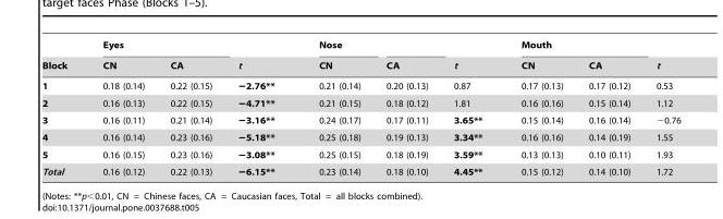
<table><thead><tr><td rowspan="2">Block</td><td colspan="2">Eyes</td><td rowspan="2">t</td><td rowspan="2">Nose CN</td><td rowspan="2">CA</td><td rowspan="2">t</td><td colspan="2">Mouth</td><td rowspan="2">t</td></tr><tr><td>CN</td><td>CA</td><td>CN</td><td>CA</td></tr></thead><tbody><tr><td>1</td><td>0.18 (0.14)</td><td>0.22 (0.15)</td><td>−2.76**</td><td>0.21 (0.14)</td><td>0.20 (0.13)</td><td>0.87</td><td>0.17 (0.13)</td><td>0.17 (0.12)</td><td>0.53</td></tr><tr><td>2</td><td>0.16 (0.13)</td><td>0.22 (0.15)</td><td>−4.71**</td><td>0.21 (0.15)</td><td>0.18 (0.12)</td><td>1.81</td><td>0.16 (0.16)</td><td>0.15 (0.14)</td><td>1.12</td></tr><tr><td>3</td><td>0.16 (0.11)</td><td>0.21 (0.14)</td><td>−3.16**</td><td>0.24 (0.17)</td><td>0.17 (0.11)</td><td>3.65**</td><td>0.15 (0.14)</td><td>0.16 (0.14)</td><td>−0.76</td></tr><tr><td>4</td><td>0.16 (0.14)</td><td>0.23 (0.16)</td><td>−5.18**</td><td>0.25 (0.18)</td><td>0.19 (0.13)</td><td>3.34**</td><td>0.16 (0.16)</td><td>0.14 (0.19)</td><td>1.55</td></tr><tr><td>5</td><td>0.16 (0.15)</td><td>0.23 (0.16)</td><td>−3.08**</td><td>0.25 (0.15)</td><td>0.18 (0.19)</td><td>3.59**</td><td>0.13 (0.13)</td><td>0.10 (0.11)</td><td>1.93</td></tr><tr><td>Total</td><td>0.16 (0.12)</td><td>0.22 (0.13)</td><td>−6.15**</td><td>0.23 (0.14)</td><td>0.18 (0.10)</td><td>4.45**</td><td>0.15 (0.12)</td><td>0.14 (0.10)</td><td>1.72</td></tr></tbody></table>